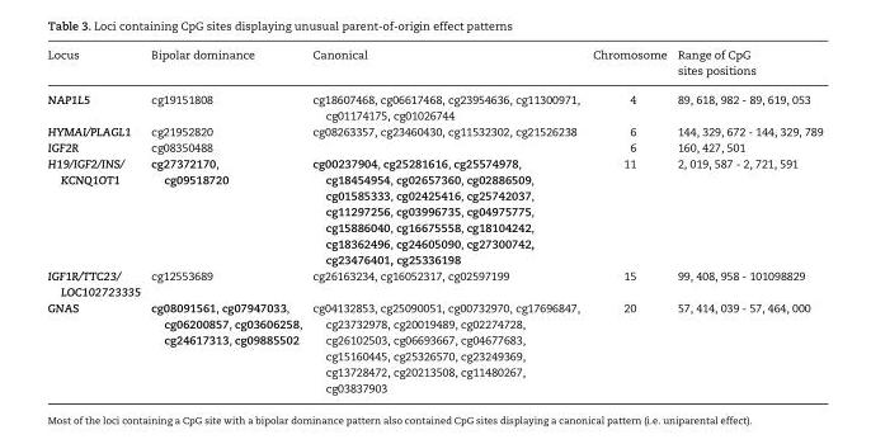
<table><thead><tr><td>Locus</td><td>Bipolar dominance</td><td>Canonical</td><td>Chromosome</td><td>Range of CpG sites positions</td></tr></thead><tbody><tr><td>NAP1L5</td><td>cg19151808</td><td>cg18607468, cg06617468, cg23954636, cg11300971, cg01174175, cg01026744</td><td>4</td><td>89, 618, 982 - 89, 619, 053</td></tr><tr><td>HYMAI/PLAGL1</td><td>cg21952820</td><td>cg08263357, cg23460430, cg11532302, cg21526238</td><td>6</td><td>144, 329, 672 - 144, 329, 789</td></tr><tr><td>IGF2R</td><td>cg08350488</td><td></td><td>6</td><td>160, 427, 501</td></tr><tr><td>H19/IGF2/INS/ KCNQ1OT1</td><td>cg27372170, cg09518720</td><td>cg00237904, cg25281616, cg25574978, cg18454954, cg02657360, cg02886509, cg01585333, cg02425416, cg25742037, cg11297256, cg03996735, cg04975775, cg15886040, cg16675558, cg18104242, cg18362496, cg24605090, cg27300742, cg23476401, cg25336198</td><td>11</td><td>2, 019, 587 - 2, 721, 591</td></tr><tr><td>IGF1R/TTC23/ LOC102723335</td><td>cg12553689</td><td>cg26163234, cg16052317, cg02597199</td><td>15</td><td>99, 408, 958 - 101098829</td></tr><tr><td>GNAS</td><td>cg08091561, cg07947033, cg06200857, cg03606258, cg24617313, cg09885502</td><td>cg04132853, cg25090051, cg00732970, cg17696847, cg23732978, cg20019489, cg02274728, cg26102503, cg06693667, cg04677683, cg15160445, cg25326570, cg23249369, cg13728472, cg20213508, cg11480267, cg03837903</td><td>20</td><td>57, 414, 039 - 57, 464, 000</td></tr></tbody></table>